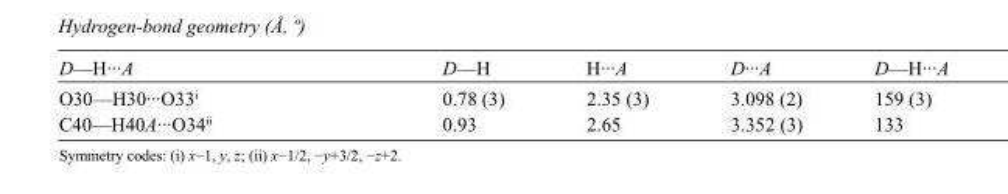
<table><tbody><tr><td>D—H···A</td><td>D—H</td><td>H···A</td><td>D···A</td><td>D—H···A</td></tr><tr><td>O30—H30···O33<sup>i</sup></td><td>0.78 (3)</td><td>2.35 (3)</td><td>3.098 (2)</td><td>159 (3)</td></tr><tr><td>C40—H40A···O34<sup>ii</sup></td><td>0.93</td><td>2.65</td><td>3.352 (3)</td><td>133</td></tr></tbody></table>